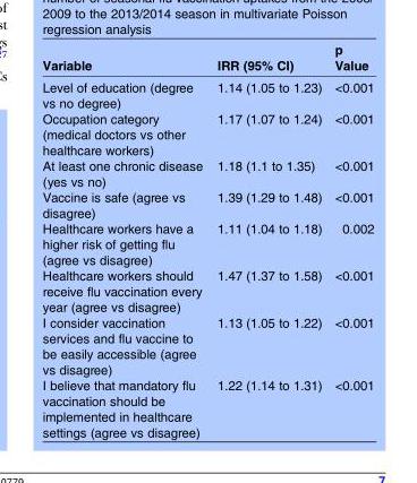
<table><thead><tr><td>Variable</td><td>IRR (95% CI)</td><td>p Value</td></tr></thead><tbody><tr><td>Level of education (degree vs no degree)</td><td>1.14 (1.05 to 1.23)</td><td>&lt;0.001</td></tr><tr><td>Occupation category (medical doctors vs other healthcare workers)</td><td>1.17 (1.07 to 1.24)</td><td>&lt;0.001</td></tr><tr><td>At least one chronic disease (yes vs no)</td><td>1.18 (1.1 to 1.35)</td><td>&lt;0.001</td></tr><tr><td>Vaccine is safe (agree vs disagree)</td><td>1.39 (1.29 to 1.48)</td><td>&lt;0.001</td></tr><tr><td>Healthcare workers have a higher risk of getting flu (agree vs disagree)</td><td>1.11 (1.04 to 1.18)</td><td>0.002</td></tr><tr><td>Healthcare workers should receive flu vaccination every year (agree vs disagree)</td><td>1.47 (1.37 to 1.58)</td><td>&lt;0.001</td></tr><tr><td>I consider vaccination services and flu vaccine to be easily accessible (agree vs disagree)</td><td>1.13 (1.05 to 1.22)</td><td>&lt;0.001</td></tr><tr><td>I believe that mandatory flu vaccination should be implemented in healthcare settings (agree vs disagree)</td><td>1.22 (1.14 to 1.31)</td><td>&lt;0.001</td></tr></tbody></table>